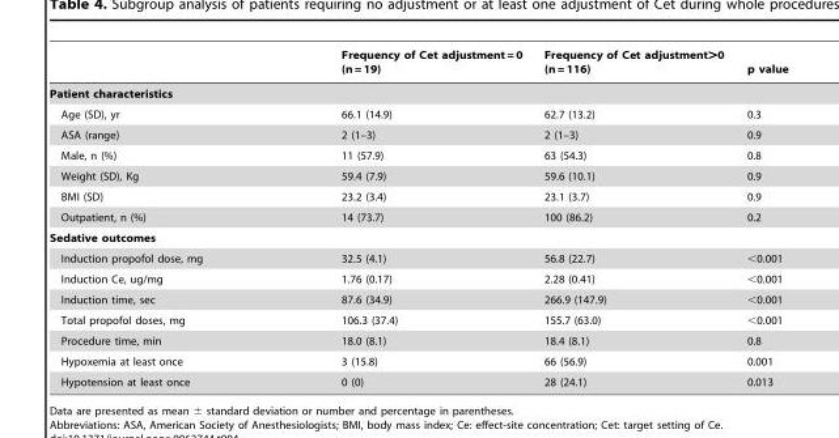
<table><thead><tr><td></td><td>Frequency of Cet adjustment = 0 (n = 19)</td><td>Frequency of Cet adjustment&gt;0 (n = 116)</td><td>p value</td></tr></thead><tbody><tr><td colspan="4">Patient characteristics</td></tr><tr><td>Age (SD), yr</td><td>66.1 (14.9)</td><td>62.7 (13.2)</td><td>0.3</td></tr><tr><td>ASA (range)</td><td>2 (1–3)</td><td>2 (1–3)</td><td>0.9</td></tr><tr><td>Male, n (%)</td><td>11 (57.9)</td><td>63 (54.3)</td><td>0.8</td></tr><tr><td>Weight (SD), Kg</td><td>59.4 (7.9)</td><td>59.6 (10.1)</td><td>0.9</td></tr><tr><td>BMI (SD)</td><td>23.2 (3.4)</td><td>23.1 (3.7)</td><td>0.9</td></tr><tr><td>Outpatient, n (%)</td><td>14 (73.7)</td><td>100 (86.2)</td><td>0.2</td></tr><tr><td colspan="4">Sedative outcomes</td></tr><tr><td>Induction propofol dose, mg</td><td>32.5 (4.1)</td><td>56.8 (22.7)</td><td>&lt;0.001</td></tr><tr><td>Induction Ce, ug/mg</td><td>1.76 (0.17)</td><td>2.28 (0.41)</td><td>&lt;0.001</td></tr><tr><td>Induction time, sec</td><td>87.6 (34.9)</td><td>266.9 (147.9)</td><td>&lt;0.001</td></tr><tr><td>Total propofol doses, mg</td><td>106.3 (37.4)</td><td>155.7 (63.0)</td><td>&lt;0.001</td></tr><tr><td>Procedure time, min</td><td>18.0 (8.1)</td><td>18.4 (8.1)</td><td>0.8</td></tr><tr><td>Hypoxemia at least once</td><td>3 (15.8)</td><td>66 (56.9)</td><td>0.001</td></tr><tr><td>Hypotension at least once</td><td>0 (0)</td><td>28 (24.1)</td><td>0.013</td></tr></tbody></table>